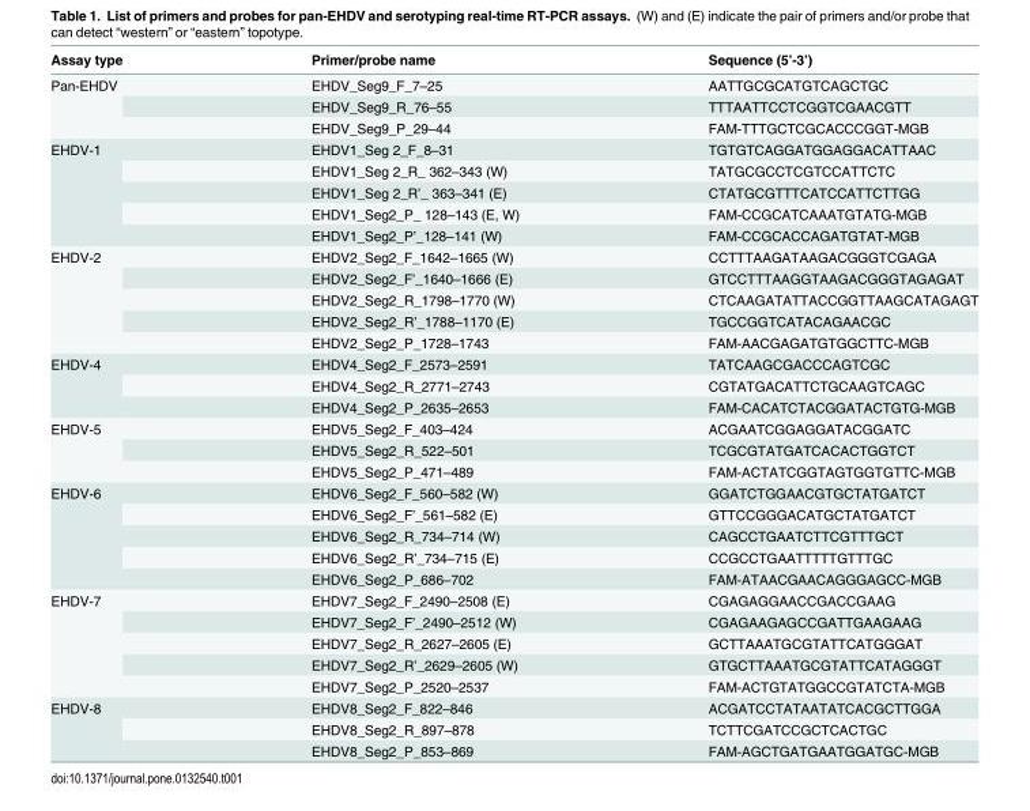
<table><thead><tr><td>Assay type</td><td>Primer/probe name</td><td>Sequence (5’-3’)</td></tr></thead><tbody><tr><td rowspan="3">Pan-EHDV</td><td>EHDV_Seg9_F_7–25</td><td>AATTGCGCATGTCAGCTGC</td></tr><tr><td>EHDV_Seg9_R_76–55</td><td>TTTAATTCCTCGGTCGAACGTT</td></tr><tr><td>EHDV_Seg9_P_29–44</td><td>FAM-TTTGCTCGCACCCGGT-MGB</td></tr><tr><td rowspan="5">EHDV-1</td><td>EHDV1_Seg 2_F_8–31</td><td>TGTGTCAGGATGGAGGACATTAAC</td></tr><tr><td>EHDV1_Seg 2_R_ 362–343 (W)</td><td>TATGCGCCTCGTCCATTCTC</td></tr><tr><td>EHDV1_Seg 2_R’_ 363–341 (E)</td><td>CTATGCGTTTCATCCATTCTTGG</td></tr><tr><td>EHDV1_Seg2_P_ 128–143 (E, W)</td><td>FAM-CCGCATCAAATGTATG-MGB</td></tr><tr><td>EHDV1_Seg2_P’_128–141 (W)</td><td>FAM-CCGCACCAGATGTAT-MGB</td></tr><tr><td rowspan="5">EHDV-2</td><td>EHDV2_Seg2_F_1642–1665 (W)</td><td>CCTTTAAGATAAGACGGGTCGAGA</td></tr><tr><td>EHDV2_Seg2_F’_1640–1666 (E)</td><td>GTCCTTTAAGGTAAGACGGGTAGAGAT</td></tr><tr><td>EHDV2_Seg2_R_1798–1770 (W)</td><td>CTCAAGATATTACCGGTTAAGCATAGAGT</td></tr><tr><td>EHDV2_Seg2_R’_1788–1170 (E)</td><td>TGCCGGTCATACAGAACGC</td></tr><tr><td>EHDV2_Seg2_P_1728–1743</td><td>FAM-AACGAGATGTGGCTTC-MGB</td></tr><tr><td rowspan="3">EHDV-4</td><td>EHDV4_Seg2_F_2573–2591</td><td>TATCAAGCGACCCAGTCGC</td></tr><tr><td>EHDV4_Seg2_R_2771–2743</td><td>CGTATGACATTCTGCAAGTCAGC</td></tr><tr><td>EHDV4_Seg2_P_2635–2653</td><td>FAM-CACATCTACGGATACTGTG-MGB</td></tr><tr><td rowspan="3">EHDV-5</td><td>EHDV5_Seg2_F_403–424</td><td>ACGAATCGGAGGATACGGATC</td></tr><tr><td>EHDV5_Seg2_R_522–501</td><td>TCGCGTATGATCACACTGGTCT</td></tr><tr><td>EHDV5_Seg2_P_471–489</td><td>FAM-ACTATCGGTAGTGGTGTTC-MGB</td></tr><tr><td rowspan="5">EHDV-6</td><td>EHDV6_Seg2_F_560–582 (W)</td><td>GGATCTGGAACGTGCTATGATCT</td></tr><tr><td>EHDV6_Seg2_F’_561–582 (E)</td><td>GTTCCGGGACATGCTATGATCT</td></tr><tr><td>EHDV6_Seg2_R_734–714 (W)</td><td>CAGCCTGAATCTTCGTTTGCT</td></tr><tr><td>EHDV6_Seg2_R’_734–715 (E)</td><td>CCGCCTGAATTTTTGTTTGC</td></tr><tr><td>EHDV6_Seg2_P_686–702</td><td>FAM-ATAACGAACAGGGAGCC-MGB</td></tr><tr><td rowspan="5">EHDV-7</td><td>EHDV7_Seg2_F_2490–2508 (E)</td><td>CGAGAGGAACCGACCGAAG</td></tr><tr><td>EHDV7_Seg2_F’_2490–2512 (W)</td><td>CGAGAAGAGCCGATTGAAGAAG</td></tr><tr><td>EHDV7_Seg2_R_2627–2605 (E)</td><td>GCTTAAATGCGTATTCATGGGAT</td></tr><tr><td>EHDV7_Seg2_R’_2629–2605 (W)</td><td>GTGCTTAAATGCGTATTCATAGGGT</td></tr><tr><td>EHDV7_Seg2_P_2520–2537</td><td>FAM-ACTGTATGGCCGTATCTA-MGB</td></tr><tr><td rowspan="3">EHDV-8</td><td>EHDV8_Seg2_F_822–846</td><td>ACGATCCTATAATATCACGCTTGGA</td></tr><tr><td>EHDV8_Seg2_R_897–878</td><td>TCTTCGATCCGCTCACTGC</td></tr><tr><td>EHDV8_Seg2_P_853–869</td><td>FAM-AGCTGATGAATGGATGC-MGB</td></tr></tbody></table>